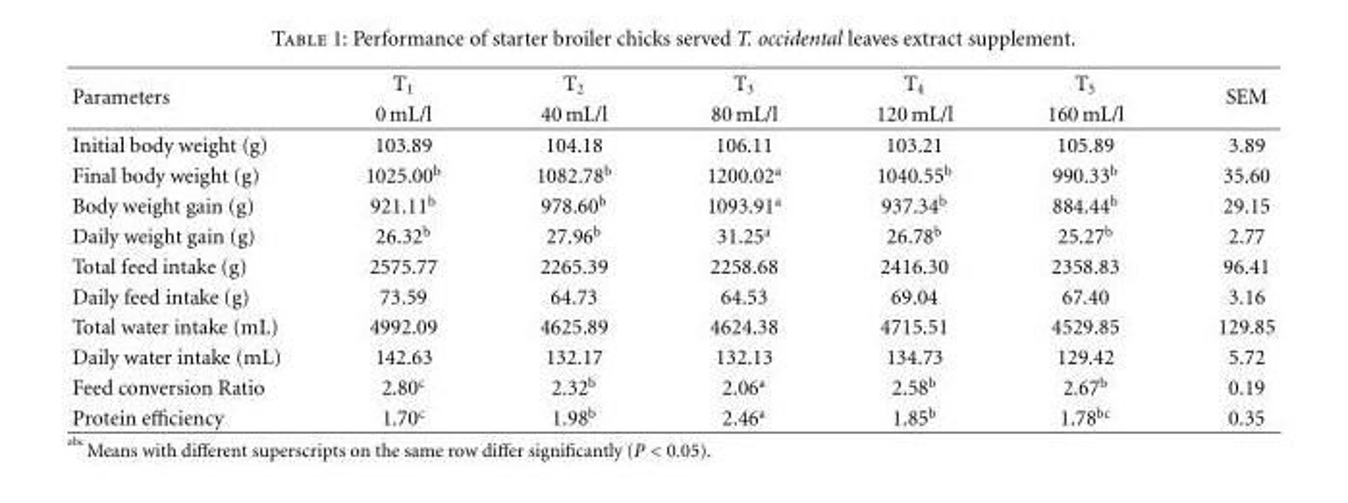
<table><thead><tr><td rowspan="2">Parameters</td><td rowspan="2">T<sub>1</sub> 0 mL/l</td><td rowspan="2">T<sub>2</sub> 40 mL/l</td><td rowspan="2">T<sub>3</sub> 80 mL/l</td><td rowspan="2">T<sub>4</sub> 120 mL/l</td><td rowspan="2">T<sub>5</sub> 160 mL/l</td><td rowspan="2">SEM</td></tr><tr></tr></thead><tbody><tr><td>Initial body weight (g)</td><td>103.89</td><td>104.18</td><td>106.11</td><td>103.21</td><td>105.89</td><td>3.89</td></tr><tr><td>Final body weight (g)</td><td>1025.00<sup>b</sup></td><td>1082.78<sup>b</sup></td><td>1200.02<sup>a</sup></td><td>1040.55<sup>b</sup></td><td>990.33<sup>b</sup></td><td>35.60</td></tr><tr><td>Body weight gain (g)</td><td>921.11<sup>b</sup></td><td>978.60<sup>b</sup></td><td>1093.91<sup>a</sup></td><td>937.34<sup>b</sup></td><td>884.44<sup>b</sup></td><td>29.15</td></tr><tr><td>Daily weight gain (g)</td><td>26.32<sup>b</sup></td><td>27.96<sup>b</sup></td><td>31.25<sup>a</sup></td><td>26.78<sup>b</sup></td><td>25.27<sup>b</sup></td><td>2.77</td></tr><tr><td>Total feed intake (g)</td><td>2575.77</td><td>2265.39</td><td>2258.68</td><td>2416.30</td><td>2358.83</td><td>96.41</td></tr><tr><td>Daily feed intake (g)</td><td>73.59</td><td>64.73</td><td>64.53</td><td>69.04</td><td>67.40</td><td>3.16</td></tr><tr><td>Total water intake (mL)</td><td>4992.09</td><td>4625.89</td><td>4624.38</td><td>4715.51</td><td>4529.85</td><td>129.85</td></tr><tr><td>Daily water intake (mL)</td><td>142.63</td><td>132.17</td><td>132.13</td><td>134.73</td><td>129.42</td><td>5.72</td></tr><tr><td>Feed conversion Ratio</td><td>2.80<sup>c</sup></td><td>2.32<sup>b</sup></td><td>2.06<sup>a</sup></td><td>2.58<sup>b</sup></td><td>2.67<sup>b</sup></td><td>0.19</td></tr><tr><td>Protein efficiency</td><td>1.70<sup>c</sup></td><td>1.98<sup>b</sup></td><td>2.46<sup>a</sup></td><td>1.85<sup>b</sup></td><td>1.78<sup>bc</sup></td><td>0.35</td></tr></tbody></table>